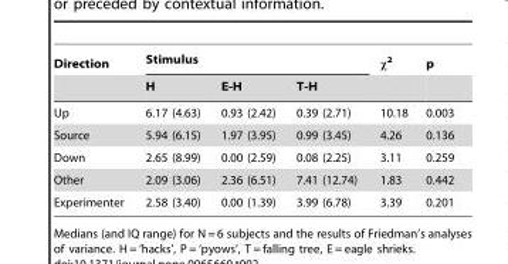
<table><thead><tr><td rowspan="2">Direction</td><td colspan="3">Stimulus</td><td rowspan="2">χ<sup>2</sup></td><td rowspan="2">p</td></tr><tr><td>H</td><td>E-H</td><td>T-H</td></tr></thead><tbody><tr><td>Up</td><td>6.17 (4.63)</td><td>0.93 (2.42)</td><td>0.39 (2.71)</td><td>10.18</td><td>0.003</td></tr><tr><td>Source</td><td>5.94 (6.15)</td><td>1.97 (3.95)</td><td>0.99 (3.45)</td><td>4.26</td><td>0.136</td></tr><tr><td>Down</td><td>2.65 (8.99)</td><td>0.00 (2.59)</td><td>0.08 (2.25)</td><td>3.11</td><td>0.259</td></tr><tr><td>Other</td><td>2.09 (3.06)</td><td>2.36 (6.51)</td><td>7.41 (12.74)</td><td>1.83</td><td>0.442</td></tr><tr><td>Experimenter</td><td>2.58 (3.40)</td><td>0.00 (1.39)</td><td>3.99 (6.78)</td><td>3.39</td><td>0.201</td></tr></tbody></table>